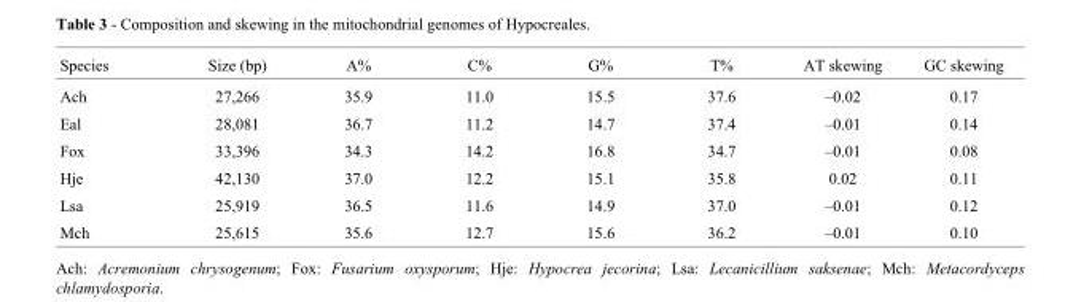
<table><thead><tr><td>Species</td><td>Size (bp)</td><td>A%</td><td>C%</td><td>G%</td><td>T%</td><td>AT skewing</td><td>GC skewing</td></tr></thead><tbody><tr><td>Ach</td><td>27,266</td><td>35.9</td><td>11.0</td><td>15.5</td><td>37.6</td><td>–0.02</td><td>0.17</td></tr><tr><td>Eal</td><td>28,081</td><td>36.7</td><td>11.2</td><td>14.7</td><td>37.4</td><td>–0.01</td><td>0.14</td></tr><tr><td>Fox</td><td>33,396</td><td>34.3</td><td>14.2</td><td>16.8</td><td>34.7</td><td>–0.01</td><td>0.08</td></tr><tr><td>Hje</td><td>42,130</td><td>37.0</td><td>12.2</td><td>15.1</td><td>35.8</td><td>0.02</td><td>0.11</td></tr><tr><td>Lsa</td><td>25,919</td><td>36.5</td><td>11.6</td><td>14.9</td><td>37.0</td><td>–0.01</td><td>0.12</td></tr><tr><td>Mch</td><td>25,615</td><td>35.6</td><td>12.7</td><td>15.6</td><td>36.2</td><td>–0.01</td><td>0.10</td></tr></tbody></table>